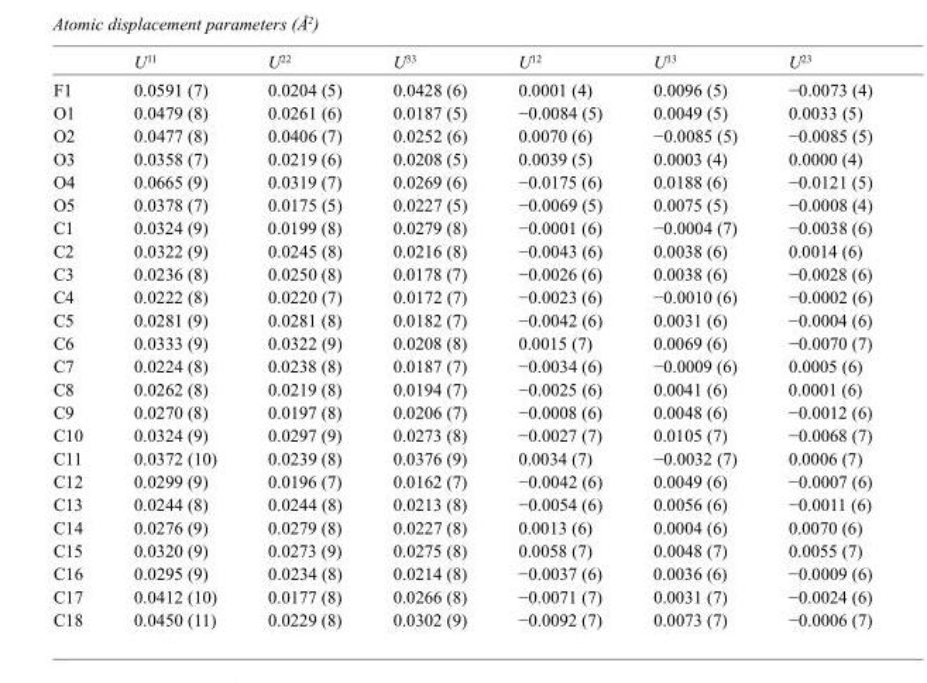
<table><thead><tr><td></td><td>U<sup>11</sup></td><td>U<sup>22</sup></td><td>U<sup>33</sup></td><td>U<sup>12</sup></td><td>U<sup>13</sup></td><td>U<sup>23</sup></td></tr></thead><tbody><tr><td>F1</td><td>0.0591 (7)</td><td>0.0204 (5)</td><td>0.0428 (6)</td><td>0.0001 (4)</td><td>0.0096 (5)</td><td>−0.0073 (4)</td></tr><tr><td>O1</td><td>0.0479 (8)</td><td>0.0261 (6)</td><td>0.0187 (5)</td><td>−0.0084 (5)</td><td>0.0049 (5)</td><td>0.0033 (5)</td></tr><tr><td>O2</td><td>0.0477 (8)</td><td>0.0406 (7)</td><td>0.0252 (6)</td><td>0.0070 (6)</td><td>−0.0085 (5)</td><td>−0.0085 (5)</td></tr><tr><td>O3</td><td>0.0358 (7)</td><td>0.0219 (6)</td><td>0.0208 (5)</td><td>0.0039 (5)</td><td>0.0003 (4)</td><td>0.0000 (4)</td></tr><tr><td>O4</td><td>0.0665 (9)</td><td>0.0319 (7)</td><td>0.0269 (6)</td><td>−0.0175 (6)</td><td>0.0188 (6)</td><td>−0.0121 (5)</td></tr><tr><td>O5</td><td>0.0378 (7)</td><td>0.0175 (5)</td><td>0.0227 (5)</td><td>−0.0069 (5)</td><td>0.0075 (5)</td><td>−0.0008 (4)</td></tr><tr><td>C1</td><td>0.0324 (9)</td><td>0.0199 (8)</td><td>0.0279 (8)</td><td>−0.0001 (6)</td><td>−0.0004 (7)</td><td>−0.0038 (6)</td></tr><tr><td>C2</td><td>0.0322 (9)</td><td>0.0245 (8)</td><td>0.0216 (8)</td><td>−0.0043 (6)</td><td>0.0038 (6)</td><td>0.0014 (6)</td></tr><tr><td>C3</td><td>0.0236 (8)</td><td>0.0250 (8)</td><td>0.0178 (7)</td><td>−0.0026 (6)</td><td>0.0038 (6)</td><td>−0.0028 (6)</td></tr><tr><td>C4</td><td>0.0222 (8)</td><td>0.0220 (7)</td><td>0.0172 (7)</td><td>−0.0023 (6)</td><td>−0.0010 (6)</td><td>−0.0002 (6)</td></tr><tr><td>C5</td><td>0.0281 (9)</td><td>0.0281 (8)</td><td>0.0182 (7)</td><td>−0.0042 (6)</td><td>0.0031 (6)</td><td>−0.0004 (6)</td></tr><tr><td>C6</td><td>0.0333 (9)</td><td>0.0322 (9)</td><td>0.0208 (8)</td><td>0.0015 (7)</td><td>0.0069 (6)</td><td>−0.0070 (7)</td></tr><tr><td>C7</td><td>0.0224 (8)</td><td>0.0238 (8)</td><td>0.0187 (7)</td><td>−0.0034 (6)</td><td>−0.0009 (6)</td><td>0.0005 (6)</td></tr><tr><td>C8</td><td>0.0262 (8)</td><td>0.0219 (8)</td><td>0.0194 (7)</td><td>−0.0025 (6)</td><td>0.0041 (6)</td><td>0.0001 (6)</td></tr><tr><td>C9</td><td>0.0270 (8)</td><td>0.0197 (8)</td><td>0.0206 (7)</td><td>−0.0008 (6)</td><td>0.0048 (6)</td><td>−0.0012 (6)</td></tr><tr><td>C10</td><td>0.0324 (9)</td><td>0.0297 (9)</td><td>0.0273 (8)</td><td>−0.0027 (7)</td><td>0.0105 (7)</td><td>−0.0068 (7)</td></tr><tr><td>C11</td><td>0.0372 (10)</td><td>0.0239 (8)</td><td>0.0376 (9)</td><td>0.0034 (7)</td><td>−0.0032 (7)</td><td>0.0006 (7)</td></tr><tr><td>C12</td><td>0.0299 (9)</td><td>0.0196 (7)</td><td>0.0162 (7)</td><td>−0.0042 (6)</td><td>0.0049 (6)</td><td>−0.0007 (6)</td></tr><tr><td>C13</td><td>0.0244 (8)</td><td>0.0244 (8)</td><td>0.0213 (8)</td><td>−0.0054 (6)</td><td>0.0056 (6)</td><td>−0.0011 (6)</td></tr><tr><td>C14</td><td>0.0276 (9)</td><td>0.0279 (8)</td><td>0.0227 (8)</td><td>0.0013 (6)</td><td>0.0004 (6)</td><td>0.0070 (6)</td></tr><tr><td>C15</td><td>0.0320 (9)</td><td>0.0273 (9)</td><td>0.0275 (8)</td><td>0.0058 (7)</td><td>0.0048 (7)</td><td>0.0055 (7)</td></tr><tr><td>C16</td><td>0.0295 (9)</td><td>0.0234 (8)</td><td>0.0214 (8)</td><td>−0.0037 (6)</td><td>0.0036 (6)</td><td>−0.0009 (6)</td></tr><tr><td>C17</td><td>0.0412 (10)</td><td>0.0177 (8)</td><td>0.0266 (8)</td><td>−0.0071 (7)</td><td>0.0031 (7)</td><td>−0.0024 (6)</td></tr><tr><td>C18</td><td>0.0450 (11)</td><td>0.0229 (8)</td><td>0.0302 (9)</td><td>−0.0092 (7)</td><td>0.0073 (7)</td><td>−0.0006 (7)</td></tr></tbody></table>